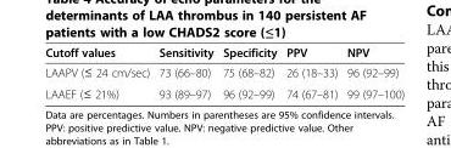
<table><thead><tr><td>Cutoff values</td><td>Sensitivity</td><td>Specificity</td><td>PPV</td><td>NPV</td></tr></thead><tbody><tr><td>LAAPV (≤ 24 cm/sec)</td><td>73 (66–80)</td><td>75 (68–82)</td><td>26 (18–33)</td><td>96 (92–99)</td></tr><tr><td>LAAEF (≤ 21%)</td><td>93 (89–97)</td><td>96 (92–99)</td><td>74 (67–81)</td><td>99 (97–100)</td></tr></tbody></table>